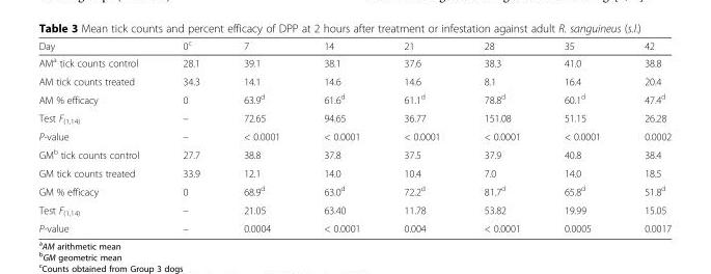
<table><thead><tr><td>Day</td><td>0<sup>c</sup></td><td>7</td><td>14</td><td>21</td><td>28</td><td>35</td><td>42</td></tr></thead><tbody><tr><td>AM<sup>a</sup> tick counts control</td><td>28.1</td><td>39.1</td><td>38.1</td><td>37.6</td><td>38.3</td><td>41.0</td><td>38.8</td></tr><tr><td>AM tick counts treated</td><td>34.3</td><td>14.1</td><td>14.6</td><td>14.6</td><td>8.1</td><td>16.4</td><td>20.4</td></tr><tr><td>AM % efficacy</td><td>0</td><td>63.9<sup>d</sup></td><td>61.6<sup>d</sup></td><td>61.1<sup>d</sup></td><td>78.8<sup>d</sup></td><td>60.1<sup>d</sup></td><td>47.4<sup>d</sup></td></tr><tr><td>Test F<sub>(1,14)</sub></td><td>–</td><td>72.65</td><td>94.65</td><td>36.77</td><td>151.08</td><td>51.15</td><td>26.28</td></tr><tr><td>P-value</td><td>–</td><td>&lt; 0.0001</td><td>&lt; 0.0001</td><td>&lt; 0.0001</td><td>&lt; 0.0001</td><td>&lt; 0.0001</td><td>0.0002</td></tr><tr><td>GM<sup>b</sup> tick counts control</td><td>27.7</td><td>38.8</td><td>37.8</td><td>37.5</td><td>37.9</td><td>40.8</td><td>38.4</td></tr><tr><td>GM tick counts treated</td><td>33.9</td><td>12.1</td><td>14.0</td><td>10.4</td><td>7.0</td><td>14.0</td><td>18.5</td></tr><tr><td>GM % efficacy</td><td>0</td><td>68.9<sup>d</sup></td><td>63.0<sup>d</sup></td><td>72.2<sup>d</sup></td><td>81.7<sup>d</sup></td><td>65.8<sup>d</sup></td><td>51.8<sup>d</sup></td></tr><tr><td>Test F<sub>(1,14)</sub></td><td>–</td><td>21.05</td><td>63.40</td><td>11.78</td><td>53.82</td><td>19.99</td><td>15.05</td></tr><tr><td>P-value</td><td>–</td><td>0.0004</td><td>&lt; 0.0001</td><td>0.004</td><td>&lt; 0.0001</td><td>0.0005</td><td>0.0017</td></tr></tbody></table>